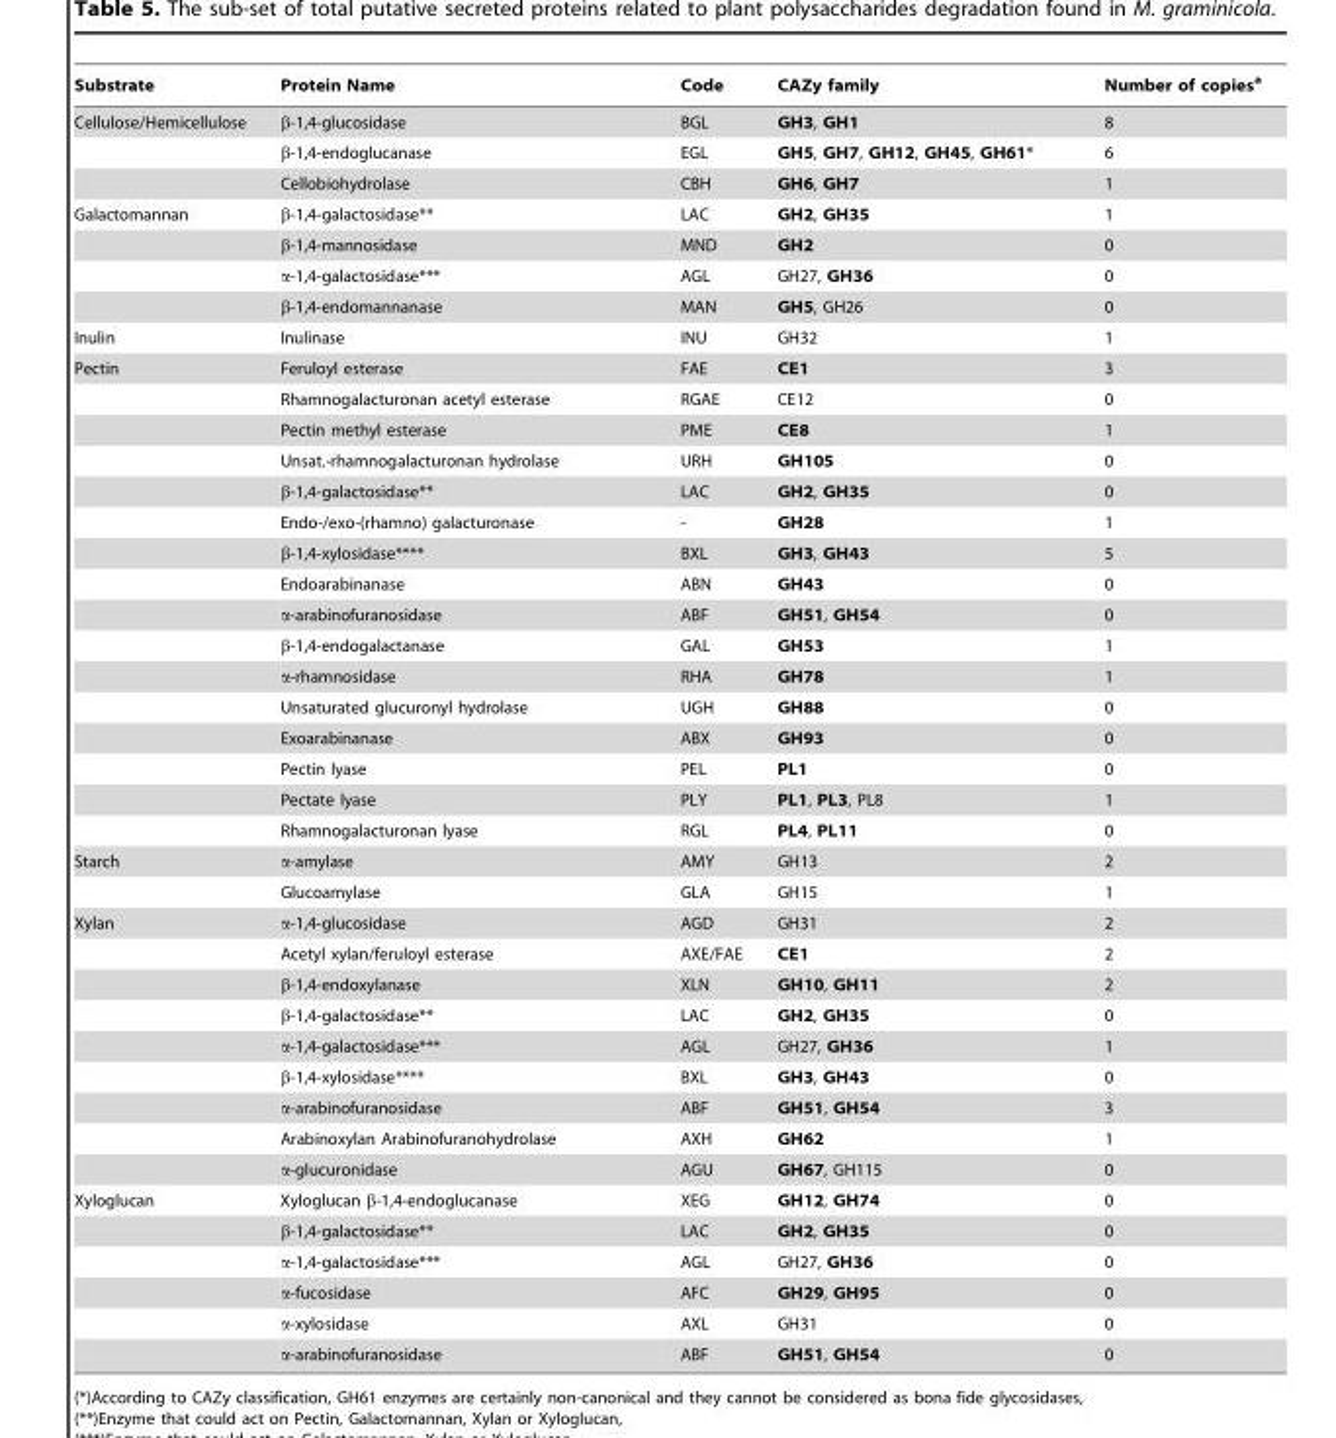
<table><thead><tr><td>Substrate</td><td>Protein Name</td><td>Code</td><td>CAZy family</td><td>Number of copies<sup>a</sup></td></tr></thead><tbody><tr><td rowspan="3">Cellulose/Hemicellulose</td><td>β-1,4-glucosidase</td><td>BGL</td><td>GH3, GH1</td><td>8</td></tr><tr><td>β-1,4-endoglucanase</td><td>EGL</td><td>GH5, GH7, GH12, GH45, GH61*</td><td>6</td></tr><tr><td>Cellobiohydrolase</td><td>CBH</td><td>GH6, GH7</td><td>1</td></tr><tr><td rowspan="4">Galactomannan</td><td>β-1,4-galactosidase**</td><td>LAC</td><td>GH2, GH35</td><td>1</td></tr><tr><td>β-1,4-mannosidase</td><td>MND</td><td>GH2</td><td>0</td></tr><tr><td>α-1,4-galactosidase***</td><td>AGL</td><td>GH27, GH36</td><td>0</td></tr><tr><td>β-1,4-endomannanase</td><td>MAN</td><td>GH5, GH26</td><td>0</td></tr><tr><td>Inulin</td><td>Inulinase</td><td>INU</td><td>GH32</td><td>1</td></tr><tr><td rowspan="16">Pectin</td><td>Feruloyl esterase</td><td>FAE</td><td>CE1</td><td>3</td></tr><tr><td>Rhamnogalacturonan acetyl esterase</td><td>RGAE</td><td>CE12</td><td>0</td></tr><tr><td>Pectin methyl esterase</td><td>PME</td><td>CE8</td><td>1</td></tr><tr><td>Unsat.-rhamnogalacturonan hydrolase</td><td>URH</td><td>GH105</td><td>0</td></tr><tr><td>β-1,4-galactosidase**</td><td>LAC</td><td>GH2, GH35</td><td>0</td></tr><tr><td>Endo-/exo-(rhamno) galacturonase</td><td>-</td><td>GH28</td><td>1</td></tr><tr><td>β-1,4-xylosidase****</td><td>BXL</td><td>GH3, GH43</td><td>5</td></tr><tr><td>Endoarabinanase</td><td>ABN</td><td>GH43</td><td>0</td></tr><tr><td>α-arabinofuranosidase</td><td>ABF</td><td>GH51, GH54</td><td>0</td></tr><tr><td>β-1,4-endogalactanase</td><td>GAL</td><td>GH53</td><td>1</td></tr><tr><td>α-rhamnosidase</td><td>RHA</td><td>GH78</td><td>1</td></tr><tr><td>Unsaturated glucuronyl hydrolase</td><td>UGH</td><td>GH88</td><td>0</td></tr><tr><td>Exoarabinanase</td><td>ABX</td><td>GH93</td><td>0</td></tr><tr><td>Pectin lyase</td><td>PEL</td><td>PL1</td><td>0</td></tr><tr><td>Pectate lyase</td><td>PLY</td><td>PL1, PL3, PL8</td><td>1</td></tr><tr><td>Rhamnogalacturonan lyase</td><td>RGL</td><td>PL4, PL11</td><td>0</td></tr><tr><td rowspan="2">Starch</td><td>α-amylase</td><td>AMY</td><td>GH13</td><td>2</td></tr><tr><td>Glucoamylase</td><td>GLA</td><td>GH15</td><td>1</td></tr><tr><td rowspan="9">Xylan</td><td>α-1,4-glucosidase</td><td>AGD</td><td>GH31</td><td>2</td></tr><tr><td>Acetyl xylan/feruloyl esterase</td><td>AXE/FAE</td><td>CE1</td><td>2</td></tr><tr><td>β-1,4-endoxylanase</td><td>XLN</td><td>GH10, GH11</td><td>2</td></tr><tr><td>β-1,4-galactosidase**</td><td>LAC</td><td>GH2, GH35</td><td>0</td></tr><tr><td>α-1,4-galactosidase***</td><td>AGL</td><td>GH27, GH36</td><td>1</td></tr><tr><td>β-1,4-xylosidase****</td><td>BXL</td><td>GH3, GH43</td><td>0</td></tr><tr><td>α-arabinofuranosidase</td><td>ABF</td><td>GH51, GH54</td><td>3</td></tr><tr><td>Arabinoxylan Arabinofuranohydrolase</td><td>AXH</td><td>GH62</td><td>1</td></tr><tr><td>α-glucuronidase</td><td>AGU</td><td>GH67, GH115</td><td>0</td></tr><tr><td rowspan="6">Xyloglucan</td><td>Xyloglucan β-1,4-endoglucanase</td><td>XEG</td><td>GH12, GH74</td><td>0</td></tr><tr><td>β-1,4-galactosidase**</td><td>LAC</td><td>GH2, GH35</td><td>0</td></tr><tr><td>α-1,4-galactosidase***</td><td>AGL</td><td>GH27, GH36</td><td>0</td></tr><tr><td>α-fucosidase</td><td>AFC</td><td>GH29, GH95</td><td>0</td></tr><tr><td>α-xylosidase</td><td>AXL</td><td>GH31</td><td>0</td></tr><tr><td>α-arabinofuranosidase</td><td>ABF</td><td>GH51, GH54</td><td>0</td></tr></tbody></table>